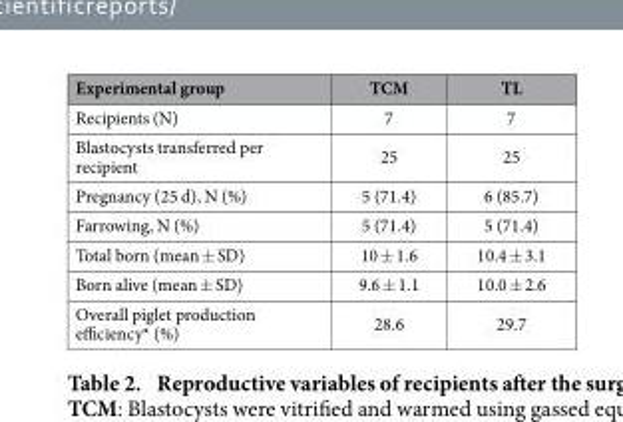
<table><thead><tr><td>Experimental group</td><td>TCM</td><td>TL</td></tr></thead><tbody><tr><td>Recipients (N)</td><td>7</td><td>7</td></tr><tr><td>Blastocysts transferred per recipient</td><td>25</td><td>25</td></tr><tr><td>Pregnancy (25 d), N (%)</td><td>5 (71.4)</td><td>6 (85.7)</td></tr><tr><td>Farrowing, N (%)</td><td>5 (71.4)</td><td>5 (71.4)</td></tr><tr><td>Total born (mean ± SD)</td><td>10 ± 1.6</td><td>10.4 ± 3.1</td></tr><tr><td>Born alive (mean ± SD)</td><td>9.6 ± 1.1</td><td>10.0 ± 2.6</td></tr><tr><td>Overall piglet production efficiency* (%)</td><td>28.6</td><td>29.7</td></tr></tbody></table>